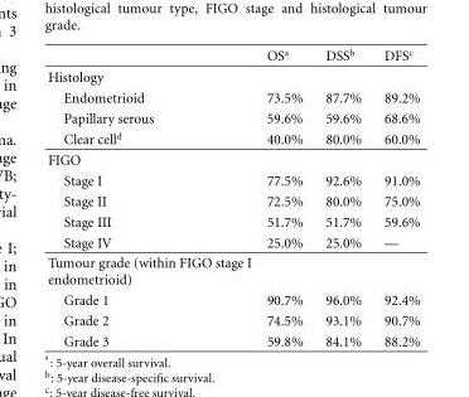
<table><thead><tr><td></td><td>OS<sup>a</sup></td><td>DSS<sup>b</sup></td><td>DFS<sup>c</sup></td></tr></thead><tbody><tr><td colspan="4">Histology</td></tr><tr><td>Endometrioid</td><td>73.5%</td><td>87.7%</td><td>89.2%</td></tr><tr><td>Papillary serous</td><td>59.6%</td><td>59.6%</td><td>68.6%</td></tr><tr><td>Clear cell<sup>d</sup></td><td>40.0%</td><td>80.0%</td><td>60.0%</td></tr><tr><td colspan="4">FIGO</td></tr><tr><td>Stage I</td><td>77.5%</td><td>92.6%</td><td>91.0%</td></tr><tr><td>Stage II</td><td>72.5%</td><td>80.0%</td><td>75.0%</td></tr><tr><td>Stage III</td><td>51.7%</td><td>51.7%</td><td>59.6%</td></tr><tr><td>Stage IV</td><td>25.0%</td><td>25.0%</td><td>—</td></tr><tr><td colspan="4">Tumour grade (within FIGO stage I endometrioid)</td></tr><tr><td>Grade 1</td><td>90.7%</td><td>96.0%</td><td>92.4%</td></tr><tr><td>Grade 2</td><td>74.5%</td><td>93.1%</td><td>90.7%</td></tr><tr><td>Grade 3</td><td>59.8%</td><td>84.1%</td><td>88.2%</td></tr></tbody></table>